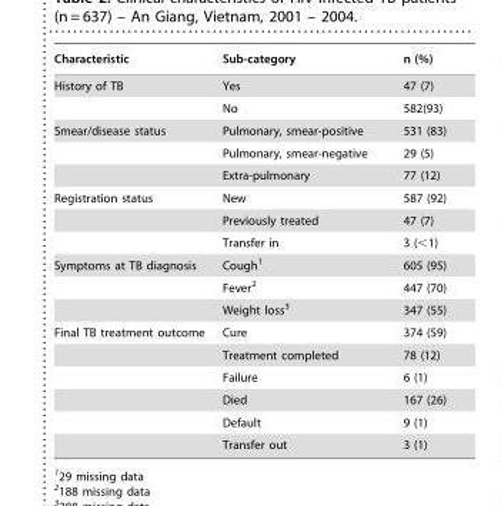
<table><thead><tr><td>Characteristic</td><td>Sub-category</td><td>n (%)</td></tr></thead><tbody><tr><td rowspan="2">History of TB</td><td>Yes</td><td>47 (7)</td></tr><tr><td>No</td><td>582(93)</td></tr><tr><td rowspan="3">Smear/disease status</td><td>Pulmonary, smear-positive</td><td>531 (83)</td></tr><tr><td>Pulmonary, smear-negative</td><td>29 (5)</td></tr><tr><td>Extra-pulmonary</td><td>77 (12)</td></tr><tr><td rowspan="3">Registration status</td><td>New</td><td>587 (92)</td></tr><tr><td>Previously treated</td><td>47 (7)</td></tr><tr><td>Transfer in</td><td>3 (&lt;1)</td></tr><tr><td rowspan="3">Symptoms at TB diagnosis</td><td>Cough<sup>1</sup></td><td>605 (95)</td></tr><tr><td>Fever<sup>2</sup></td><td>447 (70)</td></tr><tr><td>Weight loss<sup>3</sup></td><td>347 (55)</td></tr><tr><td rowspan="6">Final TB treatment outcome</td><td>Cure</td><td>374 (59)</td></tr><tr><td>Treatment completed</td><td>78 (12)</td></tr><tr><td>Failure</td><td>6 (1)</td></tr><tr><td>Died</td><td>167 (26)</td></tr><tr><td>Default</td><td>9 (1)</td></tr><tr><td>Transfer out</td><td>3 (1)</td></tr></tbody></table>